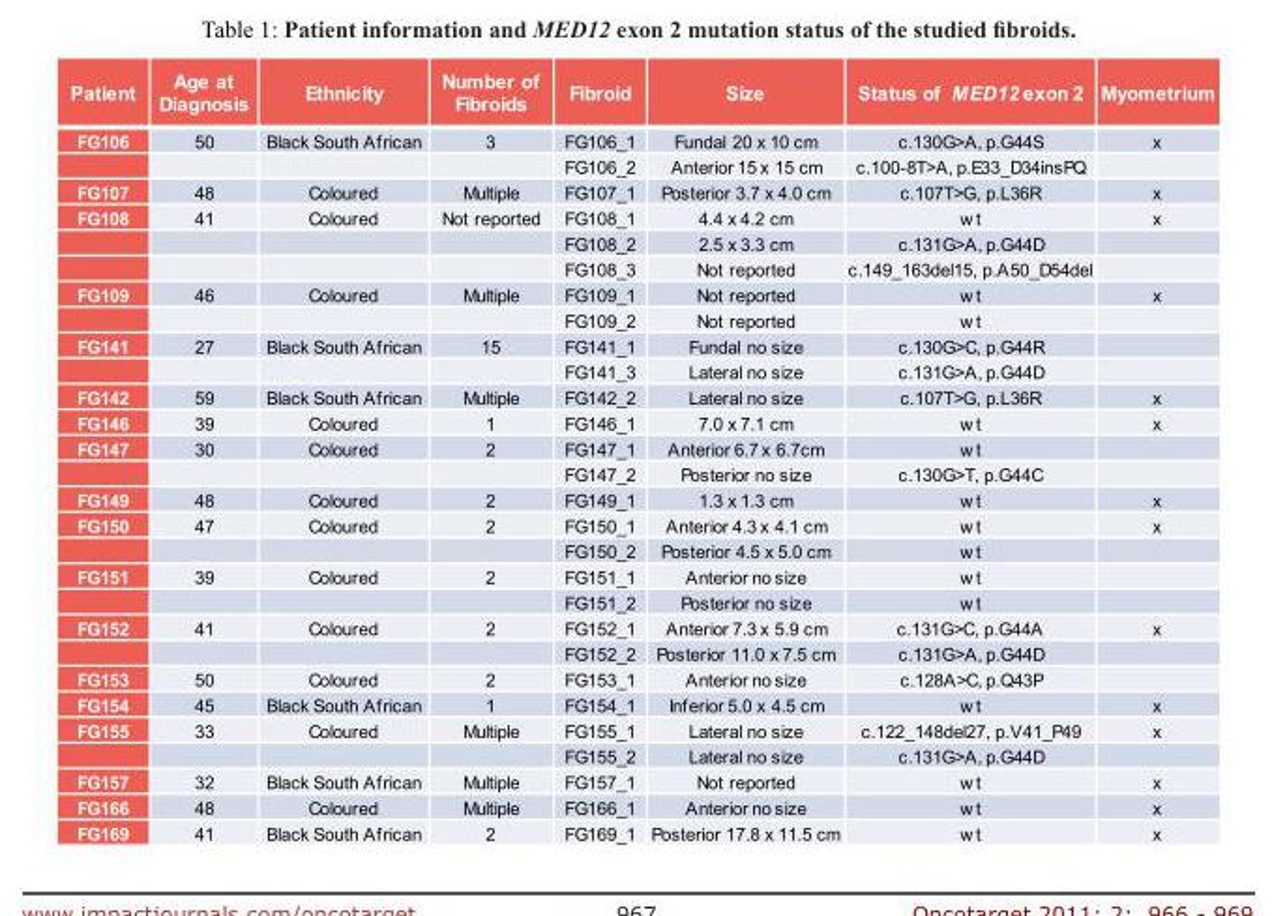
<table><thead><tr><td>Patient</td><td>Age at Diagnosis</td><td>Ethnicity</td><td>Number of Fibroids</td><td>Fibroid</td><td>Size</td><td>Status of MED12 exon 2</td><td>Myometrium</td></tr></thead><tbody><tr><td rowspan="2">FG106</td><td>50</td><td>Black South African</td><td>3</td><td>FG106_1</td><td>Fundal 20 x 10 cm</td><td>c.130G&gt;A, p.G44S</td><td>x</td></tr><tr><td></td><td></td><td></td><td>FG106_2</td><td>Anterior 15 x 15 cm</td><td>c.100-8T&gt;A, p.E33_D34insPQ</td><td></td></tr><tr><td>FG107</td><td>48</td><td>Coloured</td><td>Multiple</td><td>FG107_1</td><td>Posterior 3.7 x 4.0 cm</td><td>c.107T&gt;G, p.L36R</td><td>x</td></tr><tr><td rowspan="3">FG108</td><td>41</td><td>Coloured</td><td>Not reported</td><td>FG108_1</td><td>4.4 x 4.2 cm</td><td>w t</td><td>x</td></tr><tr><td></td><td></td><td></td><td>FG108_2</td><td>2.5 x 3.3 cm</td><td>c.131G&gt;A, p.G44D</td><td></td></tr><tr><td></td><td></td><td></td><td>FG108_3</td><td>Not reported</td><td>c.149_163del15, p.A50_D54del</td><td></td></tr><tr><td rowspan="2">FG109</td><td>46</td><td>Coloured</td><td>Multiple</td><td>FG109_1</td><td>Not reported</td><td>w t</td><td>x</td></tr><tr><td></td><td></td><td></td><td>FG109_2</td><td>Not reported</td><td>w t</td><td></td></tr><tr><td rowspan="2">FG141</td><td>27</td><td>Black South African</td><td>15</td><td>FG141_1</td><td>Fundal no size</td><td>c.130G&gt;C, p.G44R</td><td></td></tr><tr><td></td><td></td><td></td><td>FG141_3</td><td>Lateral no size</td><td>c.131G&gt;A, p.G44D</td><td></td></tr><tr><td>FG142</td><td>59</td><td>Black South African</td><td>Multiple</td><td>FG142_2</td><td>Lateral no size</td><td>c.107T&gt;G, p.L36R</td><td>x</td></tr><tr><td>FG146</td><td>39</td><td>Coloured</td><td>1</td><td>FG146_1</td><td>7.0 x 7.1 cm</td><td>w t</td><td>x</td></tr><tr><td rowspan="2">FG147</td><td>30</td><td>Coloured</td><td>2</td><td>FG147_1</td><td>Anterior 6.7 x 6.7cm</td><td>w t</td><td></td></tr><tr><td></td><td></td><td></td><td>FG147_2</td><td>Posterior no size</td><td>c.130G&gt;T, p.G44C</td><td></td></tr><tr><td>FG149</td><td>48</td><td>Coloured</td><td>2</td><td>FG149_1</td><td>1.3 x 1.3 cm</td><td>w t</td><td>x</td></tr><tr><td rowspan="2">FG150</td><td>47</td><td>Coloured</td><td>2</td><td>FG150_1</td><td>Anterior 4.3 x 4.1 cm</td><td>w t</td><td>x</td></tr><tr><td></td><td></td><td></td><td>FG150_2</td><td>Posterior 4.5 x 5.0 cm</td><td>w t</td><td></td></tr><tr><td rowspan="2">FG151</td><td>39</td><td>Coloured</td><td>2</td><td>FG151_1</td><td>Anterior no size</td><td>w t</td><td></td></tr><tr><td></td><td></td><td></td><td>FG151_2</td><td>Posterior no size</td><td>w t</td><td></td></tr><tr><td rowspan="2">FG152</td><td>41</td><td>Coloured</td><td>2</td><td>FG152_1</td><td>Anterior 7.3 x 5.9 cm</td><td>c.131G&gt;C, p.G44A</td><td>x</td></tr><tr><td></td><td></td><td></td><td>FG152_2</td><td>Posterior 11.0 x 7.5 cm</td><td>c.131G&gt;A, p.G44D</td><td></td></tr><tr><td>FG153</td><td>50</td><td>Coloured</td><td>2</td><td>FG153_1</td><td>Anterior no size</td><td>c.128A&gt;C, p.Q43P</td><td></td></tr><tr><td>FG154</td><td>45</td><td>Black South African</td><td>1</td><td>FG154_1</td><td>Inferior 5.0 x 4.5 cm</td><td>w t</td><td>x</td></tr><tr><td rowspan="2">FG155</td><td>33</td><td>Coloured</td><td>Multiple</td><td>FG155_1</td><td>Lateral no size</td><td>c.122_148del27, p.V41_P49</td><td>x</td></tr><tr><td></td><td></td><td></td><td>FG155_2</td><td>Lateral no size</td><td>c.131G&gt;A, p.G44D</td><td></td></tr><tr><td>FG157</td><td>32</td><td>Black South African</td><td>Multiple</td><td>FG157_1</td><td>Not reported</td><td>w t</td><td>x</td></tr><tr><td>FG166</td><td>48</td><td>Coloured</td><td>Multiple</td><td>FG166_1</td><td>Anterior no size</td><td>w t</td><td>x</td></tr><tr><td>FG169</td><td>41</td><td>Black South African</td><td>2</td><td>FG169_1</td><td>Posterior 17.8 x 11.5 cm</td><td>w t</td><td>x</td></tr></tbody></table>